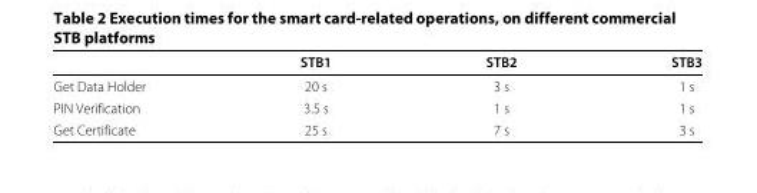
<table><thead><tr><td></td><td>STB1</td><td>STB2</td><td>STB3</td></tr></thead><tbody><tr><td>Get Data Holder</td><td>20 s</td><td>3 s</td><td>1 s</td></tr><tr><td>PIN Verification</td><td>3.5 s</td><td>1 s</td><td>1 s</td></tr><tr><td>Get Certificate</td><td>25 s</td><td>7 s</td><td>3 s</td></tr></tbody></table>